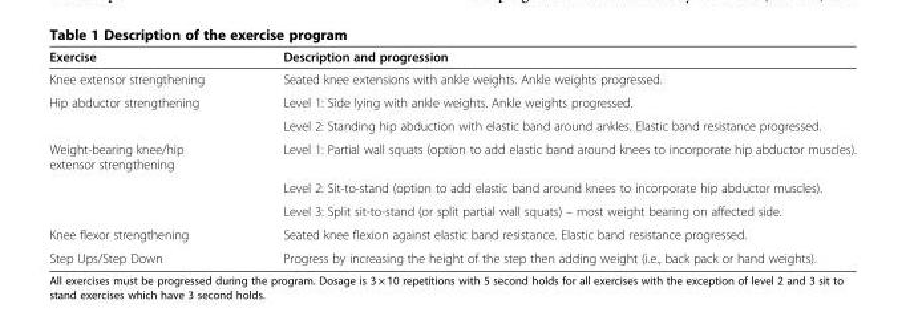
<table><thead><tr><td>Exercise</td><td>Description and progression</td></tr></thead><tbody><tr><td>Knee extensor strengthening</td><td>Seated knee extensions with ankle weights. Ankle weights progressed.</td></tr><tr><td rowspan="2">Hip abductor strengthening</td><td>Level 1: Side lying with ankle weights. Ankle weights progressed.</td></tr><tr><td>Level 2: Standing hip abduction with elastic band around ankles. Elastic band resistance progressed.</td></tr><tr><td rowspan="3">Weight-bearing knee/hip extensor strengthening</td><td>Level 1: Partial wall squats (option to add elastic band around knees to incorporate hip abductor muscles).</td></tr><tr><td>Level 2: Sit-to-stand (option to add elastic band around knees to incorporate hip abductor muscles).</td></tr><tr><td>Level 3: Split sit-to-stand (or split partial wall squats) – most weight bearing on affected side.</td></tr><tr><td>Knee flexor strengthening</td><td>Seated knee flexion against elastic band resistance. Elastic band resistance progressed.</td></tr><tr><td>Step Ups/Step Down</td><td>Progress by increasing the height of the step then adding weight (i.e., back pack or hand weights).</td></tr></tbody></table>